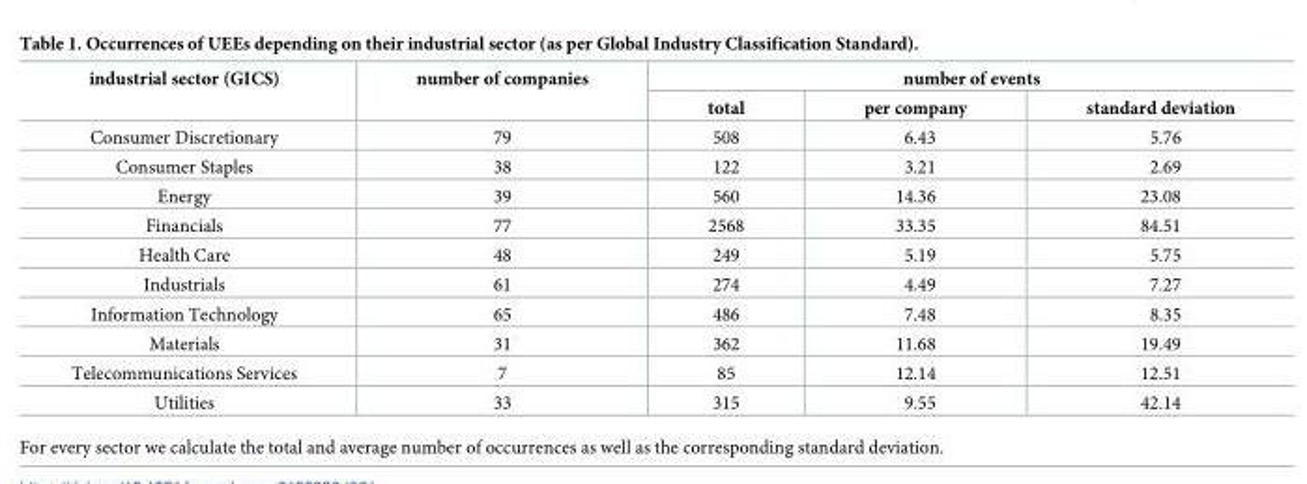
<table><thead><tr><td rowspan="2">industrial sector (GICS)</td><td rowspan="2">number of companies</td><td colspan="3">number of events</td></tr><tr><td>total</td><td>per company</td><td>standard deviation</td></tr></thead><tbody><tr><td>Consumer Discretionary</td><td>79</td><td>508</td><td>6.43</td><td>5.76</td></tr><tr><td>Consumer Staples</td><td>38</td><td>122</td><td>3.21</td><td>2.69</td></tr><tr><td>Energy</td><td>39</td><td>560</td><td>14.36</td><td>23.08</td></tr><tr><td>Financials</td><td>77</td><td>2568</td><td>33.35</td><td>84.51</td></tr><tr><td>Health Care</td><td>48</td><td>249</td><td>5.19</td><td>5.75</td></tr><tr><td>Industrials</td><td>61</td><td>274</td><td>4.49</td><td>7.27</td></tr><tr><td>Information Technology</td><td>65</td><td>486</td><td>7.48</td><td>8.35</td></tr><tr><td>Materials</td><td>31</td><td>362</td><td>11.68</td><td>19.49</td></tr><tr><td>Telecommunications Services</td><td>7</td><td>85</td><td>12.14</td><td>12.51</td></tr><tr><td>Utilities</td><td>33</td><td>315</td><td>9.55</td><td>42.14</td></tr></tbody></table>